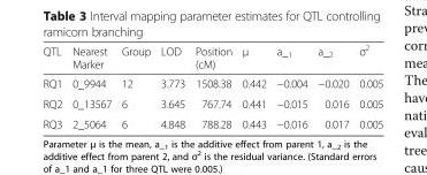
<table><thead><tr><td>QTL</td><td>Nearest Marker</td><td>Group</td><td>LOD</td><td>Position (cM)</td><td>μ</td><td>a_1</td><td>a_2</td><td>σ<sup>2</sup></td></tr></thead><tbody><tr><td>RQ1</td><td>0_9944</td><td>12</td><td>3.773</td><td>1508.38</td><td>0.442</td><td>−0.004</td><td>−0.020</td><td>0.005</td></tr><tr><td>RQ2</td><td>0_13567</td><td>6</td><td>3.645</td><td>767.74</td><td>0.441</td><td>−0.015</td><td>0.016</td><td>0.005</td></tr><tr><td>RQ3</td><td>2_5064</td><td>6</td><td>4.848</td><td>788.28</td><td>0.443</td><td>−0.016</td><td>0.017</td><td>0.005</td></tr></tbody></table>